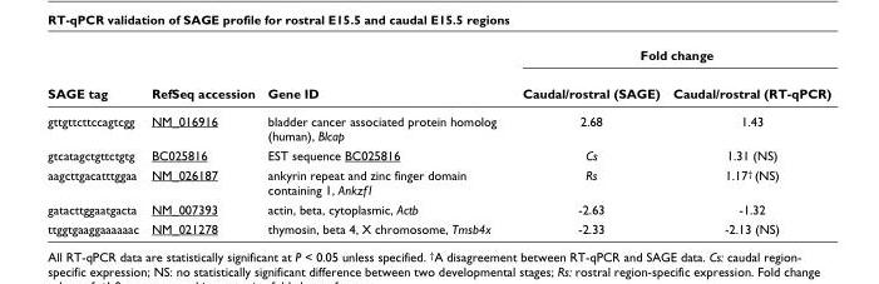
<table><thead><tr><td rowspan="2">SAGE tag</td><td rowspan="2">RefSeq accession</td><td rowspan="2">Gene ID</td><td colspan="2">Fold change</td></tr><tr><td>Caudal/rostral (SAGE)</td><td>Caudal/rostral (RT-qPCR)</td></tr></thead><tbody><tr><td>gttgttcttccagtcgg</td><td>NM_016916</td><td>bladder cancer associated protein homolog (human), Blcap</td><td>2.68</td><td>1.43</td></tr><tr><td>gtcatagctgttctgtg</td><td>BC025816</td><td>EST sequence BC025816</td><td>Cs</td><td>1.31 (NS)</td></tr><tr><td>aagcttgacatttggaa</td><td>NM_026187</td><td>ankyrin repeat and zinc finger domain containing 1, Ankzf1</td><td>Rs</td><td>1.17<sup>†</sup> (NS)</td></tr><tr><td>gatacttggaatgacta</td><td>NM_007393</td><td>actin, beta, cytoplasmic, Actb</td><td>-2.63</td><td>-1.32</td></tr><tr><td>ttggtgaaggaaaaaac</td><td>NM_021278</td><td>thymosin, beta 4, X chromosome, Tmsb4x</td><td>-2.33</td><td>-2.13 (NS)</td></tr></tbody></table>